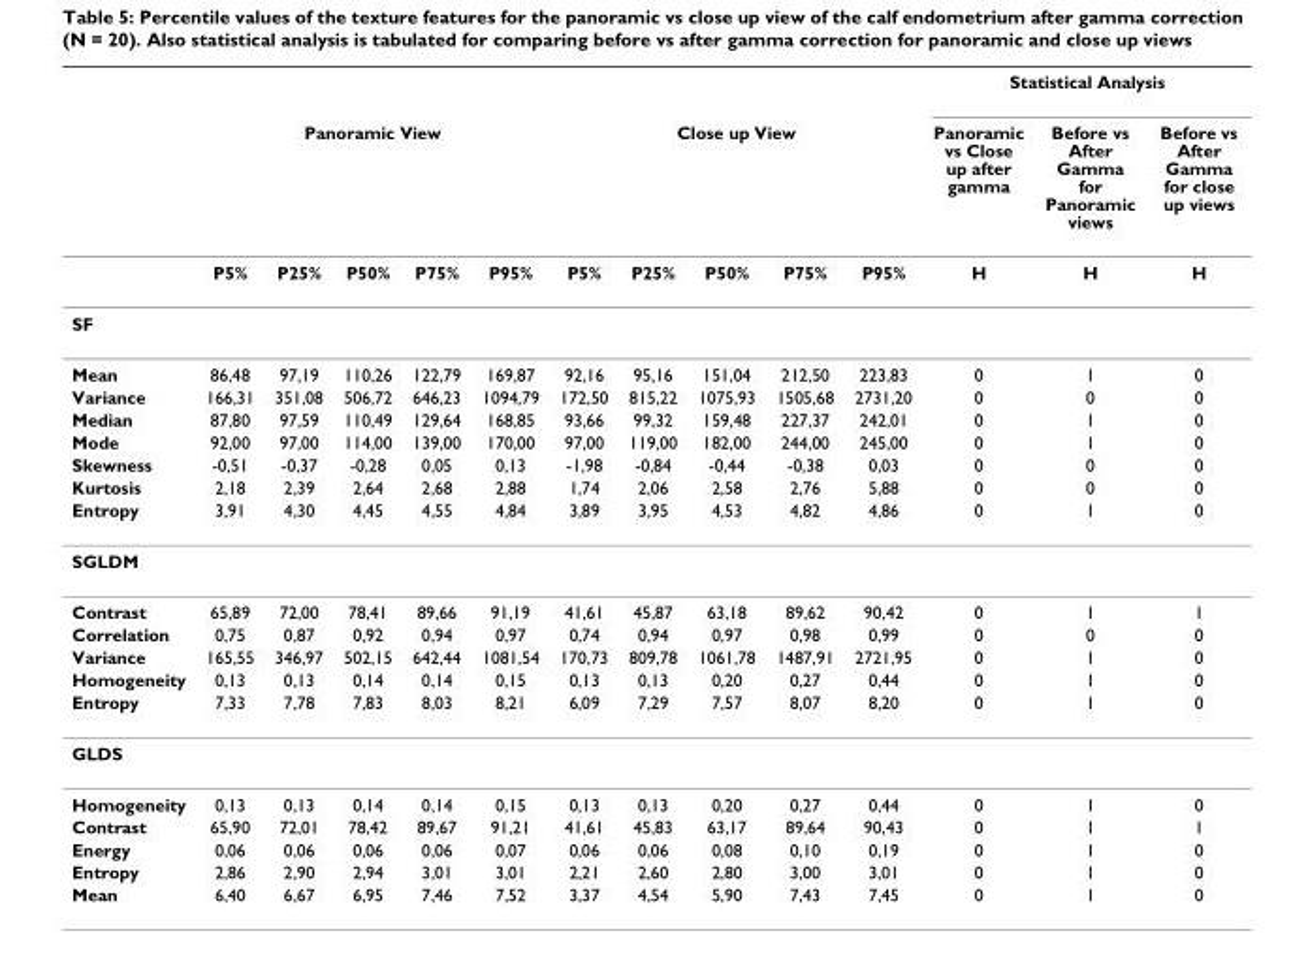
<table><thead><tr><td rowspan="2"></td><td></td><td></td><td></td><td></td><td></td><td></td><td></td><td></td><td></td><td></td><td colspan="3">Statistical Analysis</td></tr><tr><td colspan="5">Panoramic View</td><td colspan="5">Close up View</td><td>Panoramic vs Close up after gamma</td><td>Before vs After Gamma for Panoramic views</td><td>Before vs After Gamma for close up views</td></tr></thead><tbody><tr><td></td><td>P5%</td><td>P25%</td><td>P50%</td><td>P75%</td><td>P95%</td><td>P5%</td><td>P25%</td><td>P50%</td><td>P75%</td><td>P95%</td><td>H</td><td>H</td><td>H</td></tr><tr><td colspan="14">SF</td></tr><tr><td>Mean</td><td>86,48</td><td>97,19</td><td>110,26</td><td>122,79</td><td>169,87</td><td>92,16</td><td>95,16</td><td>151,04</td><td>212,50</td><td>223,83</td><td>0</td><td>1</td><td>0</td></tr><tr><td>Variance</td><td>166,31</td><td>351,08</td><td>506,72</td><td>646,23</td><td>1094,79</td><td>172,50</td><td>815,22</td><td>1075,93</td><td>1505,68</td><td>2731,20</td><td>0</td><td>0</td><td>0</td></tr><tr><td>Median</td><td>87,80</td><td>97,59</td><td>110,49</td><td>129,64</td><td>168,85</td><td>93,66</td><td>99,32</td><td>159,48</td><td>227,37</td><td>242,01</td><td>0</td><td>1</td><td>0</td></tr><tr><td>Mode</td><td>92,00</td><td>97,00</td><td>114,00</td><td>139,00</td><td>170,00</td><td>97,00</td><td>119,00</td><td>182,00</td><td>244,00</td><td>245,00</td><td>0</td><td>1</td><td>0</td></tr><tr><td>Skewness</td><td>-0,51</td><td>-0,37</td><td>-0,28</td><td>0,05</td><td>0,13</td><td>-1,98</td><td>-0,84</td><td>-0,44</td><td>-0,38</td><td>0,03</td><td>0</td><td>0</td><td>0</td></tr><tr><td>Kurtosis</td><td>2,18</td><td>2,39</td><td>2,64</td><td>2,68</td><td>2,88</td><td>1,74</td><td>2,06</td><td>2,58</td><td>2,76</td><td>5,88</td><td>0</td><td>0</td><td>0</td></tr><tr><td>Entropy</td><td>3,91</td><td>4,30</td><td>4,45</td><td>4,55</td><td>4,84</td><td>3,89</td><td>3,95</td><td>4,53</td><td>4,82</td><td>4,86</td><td>0</td><td>1</td><td>0</td></tr><tr><td colspan="14">SGLDM</td></tr><tr><td>Contrast</td><td>65,89</td><td>72,00</td><td>78,41</td><td>89,66</td><td>91,19</td><td>41,61</td><td>45,87</td><td>63,18</td><td>89,62</td><td>90,42</td><td>0</td><td>1</td><td>1</td></tr><tr><td>Correlation</td><td>0,75</td><td>0,87</td><td>0,92</td><td>0,94</td><td>0,97</td><td>0,74</td><td>0,94</td><td>0,97</td><td>0,98</td><td>0,99</td><td>0</td><td>0</td><td>0</td></tr><tr><td>Variance</td><td>165,55</td><td>346,97</td><td>502,15</td><td>642,44</td><td>1081,54</td><td>170,73</td><td>809,78</td><td>1061,78</td><td>1487,91</td><td>2721,95</td><td>0</td><td>1</td><td>0</td></tr><tr><td>Homogeneity</td><td>0,13</td><td>0,13</td><td>0,14</td><td>0,14</td><td>0,15</td><td>0,13</td><td>0,13</td><td>0,20</td><td>0,27</td><td>0,44</td><td>0</td><td>1</td><td>0</td></tr><tr><td>Entropy</td><td>7,33</td><td>7,78</td><td>7,83</td><td>8,03</td><td>8,21</td><td>6,09</td><td>7,29</td><td>7,57</td><td>8,07</td><td>8,20</td><td>0</td><td>1</td><td>0</td></tr><tr><td colspan="14">GLDS</td></tr><tr><td>Homogeneity</td><td>0,13</td><td>0,13</td><td>0,14</td><td>0,14</td><td>0,15</td><td>0,13</td><td>0,13</td><td>0,20</td><td>0,27</td><td>0,44</td><td>0</td><td>1</td><td>0</td></tr><tr><td>Contrast</td><td>65,90</td><td>72,01</td><td>78,42</td><td>89,67</td><td>91,21</td><td>41,61</td><td>45,83</td><td>63,17</td><td>89,64</td><td>90,43</td><td>0</td><td>1</td><td>1</td></tr><tr><td>Energy</td><td>0,06</td><td>0,06</td><td>0,06</td><td>0,06</td><td>0,07</td><td>0,06</td><td>0,06</td><td>0,08</td><td>0,10</td><td>0,19</td><td>0</td><td>1</td><td>0</td></tr><tr><td>Entropy</td><td>2,86</td><td>2,90</td><td>2,94</td><td>3,01</td><td>3,01</td><td>2,21</td><td>2,60</td><td>2,80</td><td>3,00</td><td>3,01</td><td>0</td><td>1</td><td>0</td></tr><tr><td>Mean</td><td>6,40</td><td>6,67</td><td>6,95</td><td>7,46</td><td>7,52</td><td>3,37</td><td>4,54</td><td>5,90</td><td>7,43</td><td>7,45</td><td>0</td><td>1</td><td>0</td></tr></tbody></table>